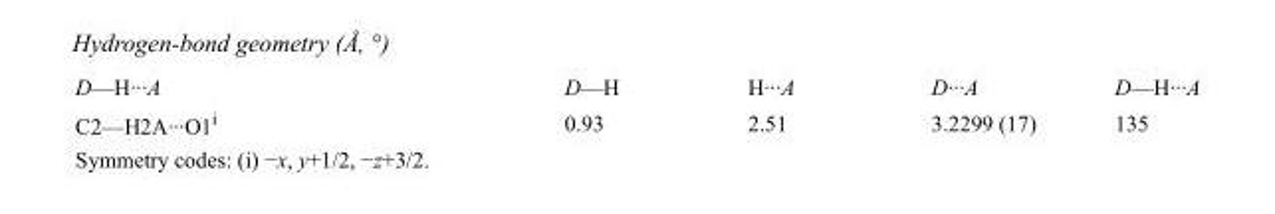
<table><tbody><tr><td>D—H···A</td><td>D—H</td><td>H···A</td><td>D···A</td><td>D—H···A</td></tr><tr><td>C2—H2A···O1<sup>i</sup></td><td>0.93</td><td>2.51</td><td>3.2299 (17)</td><td>135</td></tr></tbody></table>